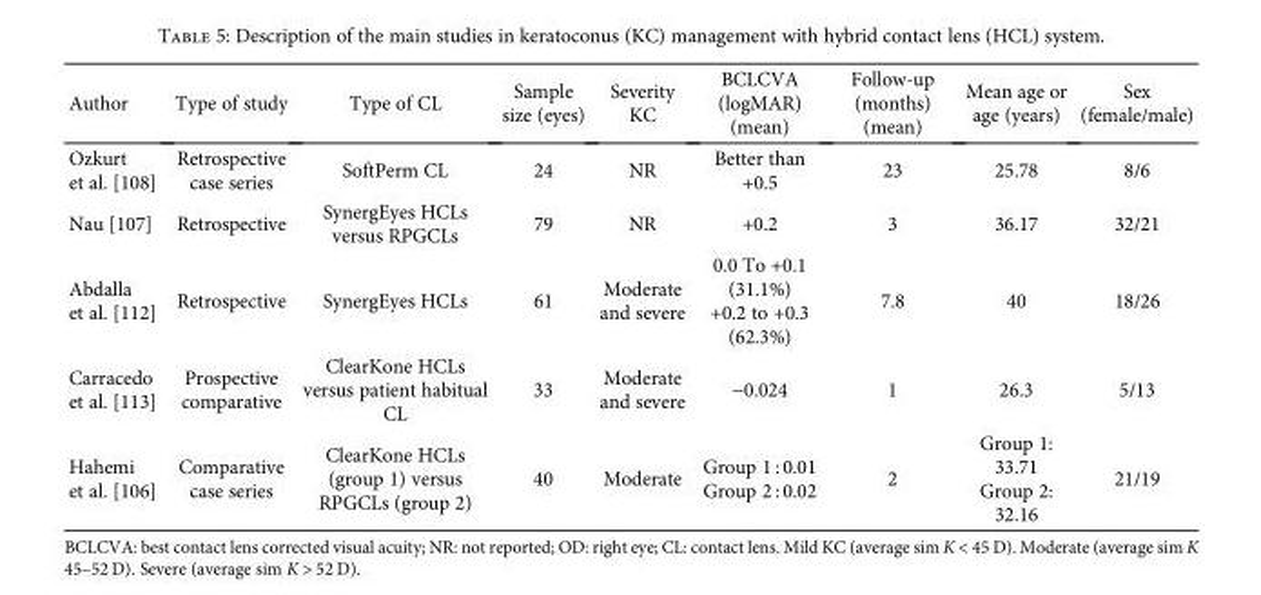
<table><thead><tr><td>Author</td><td>Type of study</td><td>Type of CL</td><td>Sample size (eyes)</td><td>Severity KC</td><td>BCLCVA (logMAR) (mean)</td><td>Follow-up (months) (mean)</td><td>Mean age or age (years)</td><td>Sex (female/male)</td></tr></thead><tbody><tr><td>Ozkurt et al. [108]</td><td>Retrospective case series</td><td>SoftPerm CL</td><td>24</td><td>NR</td><td>Better than +0.5</td><td>23</td><td>25.78</td><td>8/6</td></tr><tr><td>Nau [107]</td><td>Retrospective</td><td>SynergEyes HCLs versus RPGCLs</td><td>79</td><td>NR</td><td>+0.2</td><td>3</td><td>36.17</td><td>32/21</td></tr><tr><td>Abdalla et al. [112]</td><td>Retrospective</td><td>SynergEyes HCLs</td><td>61</td><td>Moderate and severe</td><td>0.0 To +0.1 (31.1%) +0.2 to +0.3 (62.3%)</td><td>7.8</td><td>40</td><td>18/26</td></tr><tr><td>Carracedo et al. [113]</td><td>Prospective comparative</td><td>ClearKone HCLs versus patient habitual CL</td><td>33</td><td>Moderate and severe</td><td>−0.024</td><td>1</td><td>26.3</td><td>5/13</td></tr><tr><td>Hahemi et al. [106]</td><td>Comparative case series</td><td>ClearKone HCLs (group 1) versus RPGCLs (group 2)</td><td>40</td><td>Moderate</td><td>Group 1 : 0.01 Group 2 : 0.02</td><td>2</td><td>Group 1: 33.71 Group 2: 32.16</td><td>21/19</td></tr></tbody></table>